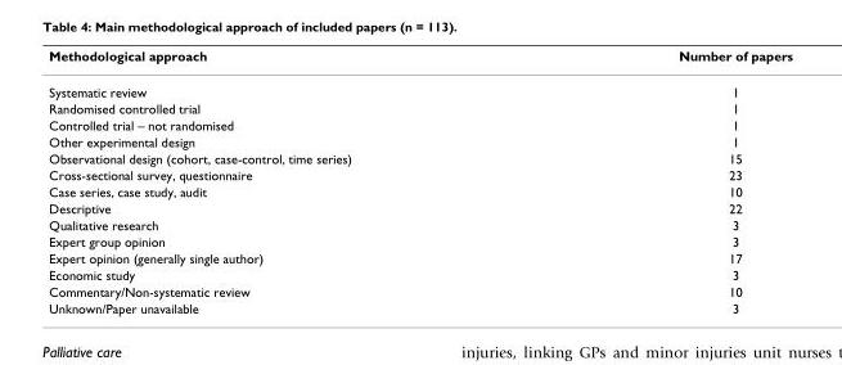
<table><thead><tr><td>Methodological approach</td><td>Number of papers</td></tr></thead><tbody><tr><td>Systematic review</td><td>1</td></tr><tr><td>Randomised controlled trial</td><td>1</td></tr><tr><td>Controlled trial – not randomised</td><td>1</td></tr><tr><td>Other experimental design</td><td>1</td></tr><tr><td>Observational design (cohort, case-control, time series)</td><td>15</td></tr><tr><td>Cross-sectional survey, questionnaire</td><td>23</td></tr><tr><td>Case series, case study, audit</td><td>10</td></tr><tr><td>Descriptive</td><td>22</td></tr><tr><td>Qualitative research</td><td>3</td></tr><tr><td>Expert group opinion</td><td>3</td></tr><tr><td>Expert opinion (generally single author)</td><td>17</td></tr><tr><td>Economic study</td><td>3</td></tr><tr><td>Commentary/Non-systematic review</td><td>10</td></tr><tr><td>Unknown/Paper unavailable</td><td>3</td></tr></tbody></table>